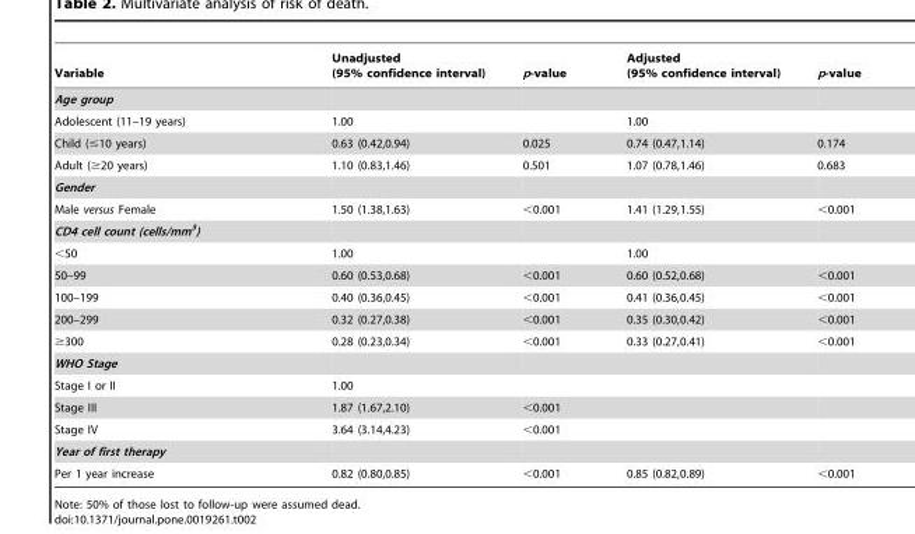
<table><thead><tr><td>Variable</td><td>Unadjusted (95% confidence interval)</td><td>p-value</td><td>Adjusted (95% confidence interval)</td><td>p-value</td></tr></thead><tbody><tr><td colspan="5">Age group</td></tr><tr><td>Adolescent (11–19 years)</td><td>1.00</td><td></td><td>1.00</td><td></td></tr><tr><td>Child (≤10 years)</td><td>0.63 (0.42,0.94)</td><td>0.025</td><td>0.74 (0.47,1.14)</td><td>0.174</td></tr><tr><td>Adult (≥20 years)</td><td>1.10 (0.83,1.46)</td><td>0.501</td><td>1.07 (0.78,1.46)</td><td>0.683</td></tr><tr><td colspan="5">Gender</td></tr><tr><td>Male versus Female</td><td>1.50 (1.38,1.63)</td><td>&lt;0.001</td><td>1.41 (1.29,1.55)</td><td>&lt;0.001</td></tr><tr><td colspan="5">CD4 cell count (cells/mm<sup>3</sup>)</td></tr><tr><td>&lt;50</td><td>1.00</td><td></td><td>1.00</td><td></td></tr><tr><td>50–99</td><td>0.60 (0.53,0.68)</td><td>&lt;0.001</td><td>0.60 (0.52,0.68)</td><td>&lt;0.001</td></tr><tr><td>100–199</td><td>0.40 (0.36,0.45)</td><td>&lt;0.001</td><td>0.41 (0.36,0.45)</td><td>&lt;0.001</td></tr><tr><td>200–299</td><td>0.32 (0.27,0.38)</td><td>&lt;0.001</td><td>0.35 (0.30,0.42)</td><td>&lt;0.001</td></tr><tr><td>≥300</td><td>0.28 (0.23,0.34)</td><td>&lt;0.001</td><td>0.33 (0.27,0.41)</td><td>&lt;0.001</td></tr><tr><td colspan="5">WHO Stage</td></tr><tr><td>Stage I or II</td><td>1.00</td><td></td><td></td><td></td></tr><tr><td>Stage III</td><td>1.87 (1.67,2.10)</td><td>&lt;0.001</td><td></td><td></td></tr><tr><td>Stage IV</td><td>3.64 (3.14,4.23)</td><td>&lt;0.001</td><td></td><td></td></tr><tr><td colspan="5">Year of first therapy</td></tr><tr><td>Per 1 year increase</td><td>0.82 (0.80,0.85)</td><td>&lt;0.001</td><td>0.85 (0.82,0.89)</td><td>&lt;0.001</td></tr></tbody></table>